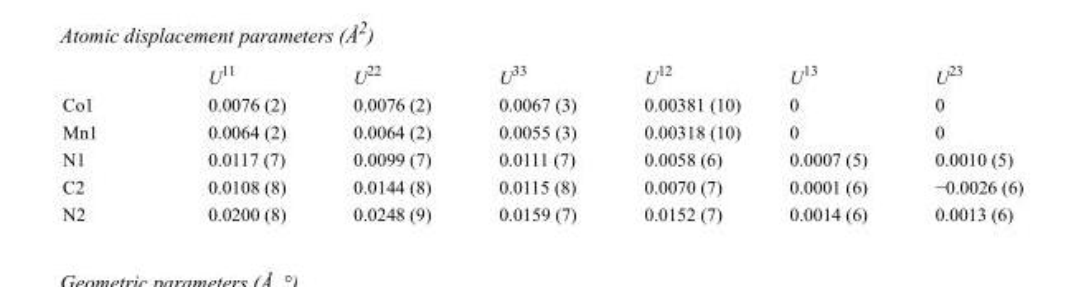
<table><thead><tr><td></td><td>U<sup>11</sup></td><td>U<sup>22</sup></td><td>U<sup>33</sup></td><td>U<sup>12</sup></td><td>U<sup>13</sup></td><td>U<sup>23</sup></td></tr></thead><tbody><tr><td>Co1</td><td>0.0076 (2)</td><td>0.0076 (2)</td><td>0.0067 (3)</td><td>0.00381 (10)</td><td>0</td><td>0</td></tr><tr><td>Mn1</td><td>0.0064 (2)</td><td>0.0064 (2)</td><td>0.0055 (3)</td><td>0.00318 (10)</td><td>0</td><td>0</td></tr><tr><td>N1</td><td>0.0117 (7)</td><td>0.0099 (7)</td><td>0.0111 (7)</td><td>0.0058 (6)</td><td>0.0007 (5)</td><td>0.0010 (5)</td></tr><tr><td>C2</td><td>0.0108 (8)</td><td>0.0144 (8)</td><td>0.0115 (8)</td><td>0.0070 (7)</td><td>0.0001 (6)</td><td>−0.0026 (6)</td></tr><tr><td>N2</td><td>0.0200 (8)</td><td>0.0248 (9)</td><td>0.0159 (7)</td><td>0.0152 (7)</td><td>0.0014 (6)</td><td>0.0013 (6)</td></tr></tbody></table>